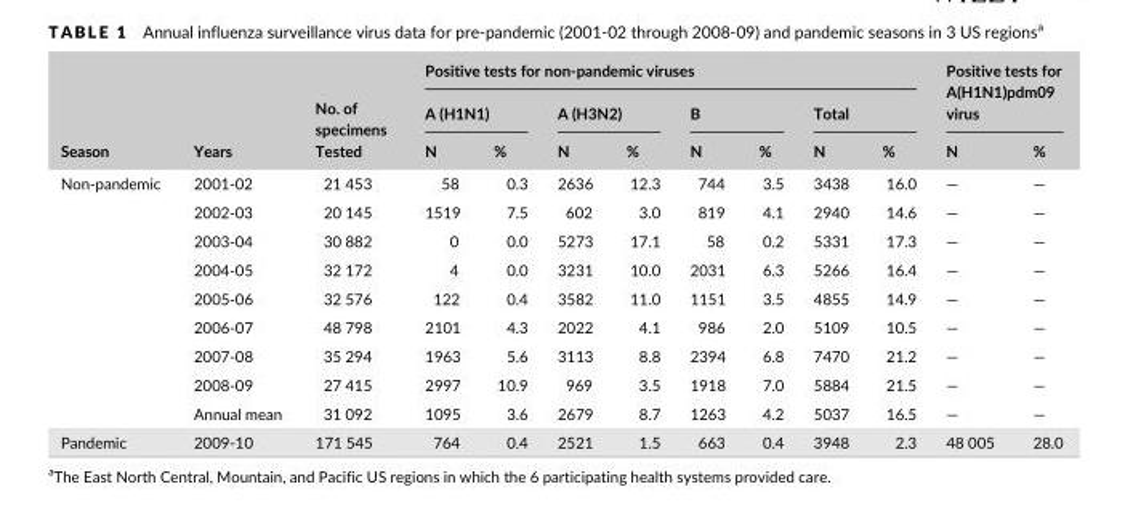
<table><thead><tr><td rowspan="3">Season</td><td rowspan="3">Years</td><td rowspan="3">No. of specimens Tested</td><td colspan="8">Positive tests for non- pandemic viruses</td><td rowspan="2" colspan="2">Positive tests for A(H1N1)pdm09 virus</td></tr><tr><td colspan="2">A (H1N1)</td><td colspan="2">A (H3N2)</td><td colspan="2">B</td><td colspan="2">Total</td></tr><tr><td>N</td><td>%</td><td>N</td><td>%</td><td>N</td><td>%</td><td>N</td><td>%</td><td>N</td><td>%</td></tr></thead><tbody><tr><td rowspan="9">Non- pandemic</td><td>2001- 02</td><td>21 453</td><td>58</td><td>0.3</td><td>2636</td><td>12.3</td><td>744</td><td>3.5</td><td>3438</td><td>16.0</td><td>—</td><td>—</td></tr><tr><td>2002- 03</td><td>20 145</td><td>1519</td><td>7.5</td><td>602</td><td>3.0</td><td>819</td><td>4.1</td><td>2940</td><td>14.6</td><td>—</td><td>—</td></tr><tr><td>2003- 04</td><td>30 882</td><td>0</td><td>0.0</td><td>5273</td><td>17.1</td><td>58</td><td>0.2</td><td>5331</td><td>17.3</td><td>—</td><td>—</td></tr><tr><td>2004- 05</td><td>32 172</td><td>4</td><td>0.0</td><td>3231</td><td>10.0</td><td>2031</td><td>6.3</td><td>5266</td><td>16.4</td><td>—</td><td>—</td></tr><tr><td>2005- 06</td><td>32 576</td><td>122</td><td>0.4</td><td>3582</td><td>11.0</td><td>1151</td><td>3.5</td><td>4855</td><td>14.9</td><td>—</td><td>—</td></tr><tr><td>2006- 07</td><td>48 798</td><td>2101</td><td>4.3</td><td>2022</td><td>4.1</td><td>986</td><td>2.0</td><td>5109</td><td>10.5</td><td>—</td><td>—</td></tr><tr><td>2007- 08</td><td>35 294</td><td>1963</td><td>5.6</td><td>3113</td><td>8.8</td><td>2394</td><td>6.8</td><td>7470</td><td>21.2</td><td>—</td><td>—</td></tr><tr><td>2008- 09</td><td>27 415</td><td>2997</td><td>10.9</td><td>969</td><td>3.5</td><td>1918</td><td>7.0</td><td>5884</td><td>21.5</td><td>—</td><td>—</td></tr><tr><td>Annual mean</td><td>31 092</td><td>1095</td><td>3.6</td><td>2679</td><td>8.7</td><td>1263</td><td>4.2</td><td>5037</td><td>16.5</td><td>—</td><td>—</td></tr><tr><td>Pandemic</td><td>2009- 10</td><td>171 545</td><td>764</td><td>0.4</td><td>2521</td><td>1.5</td><td>663</td><td>0.4</td><td>3948</td><td>2.3</td><td>48 005</td><td>28.0</td></tr></tbody></table>